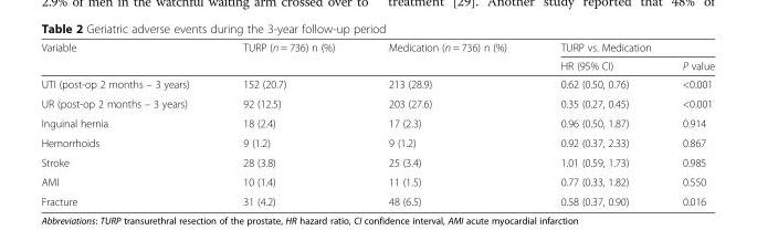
<table><thead><tr><td rowspan="2">Variable</td><td rowspan="2">TURP (n = 736) n (%)</td><td rowspan="2">Medication (n = 736) n (%)</td><td colspan="2">TURP vs. Medication</td></tr><tr><td>HR (95% CI)</td><td>P value</td></tr></thead><tbody><tr><td>UTI (post-op 2 months – 3 years)</td><td>152 (20.7)</td><td>213 (28.9)</td><td>0.62 (0.50, 0.76)</td><td>&lt;0.001</td></tr><tr><td>UR (post-op 2 months – 3 years)</td><td>92 (12.5)</td><td>203 (27.6)</td><td>0.35 (0.27, 0.45)</td><td>&lt;0.001</td></tr><tr><td>Inguinal hernia</td><td>18 (2.4)</td><td>17 (2.3)</td><td>0.96 (0.50, 1.87)</td><td>0.914</td></tr><tr><td>Hemorrhoids</td><td>9 (1.2)</td><td>9 (1.2)</td><td>0.92 (0.37, 2.33)</td><td>0.867</td></tr><tr><td>Stroke</td><td>28 (3.8)</td><td>25 (3.4)</td><td>1.01 (0.59, 1.73)</td><td>0.985</td></tr><tr><td>AMI</td><td>10 (1.4)</td><td>11 (1.5)</td><td>0.77 (0.33, 1.82)</td><td>0.550</td></tr><tr><td>Fracture</td><td>31 (4.2)</td><td>48 (6.5)</td><td>0.58 (0.37, 0.90)</td><td>0.016</td></tr></tbody></table>